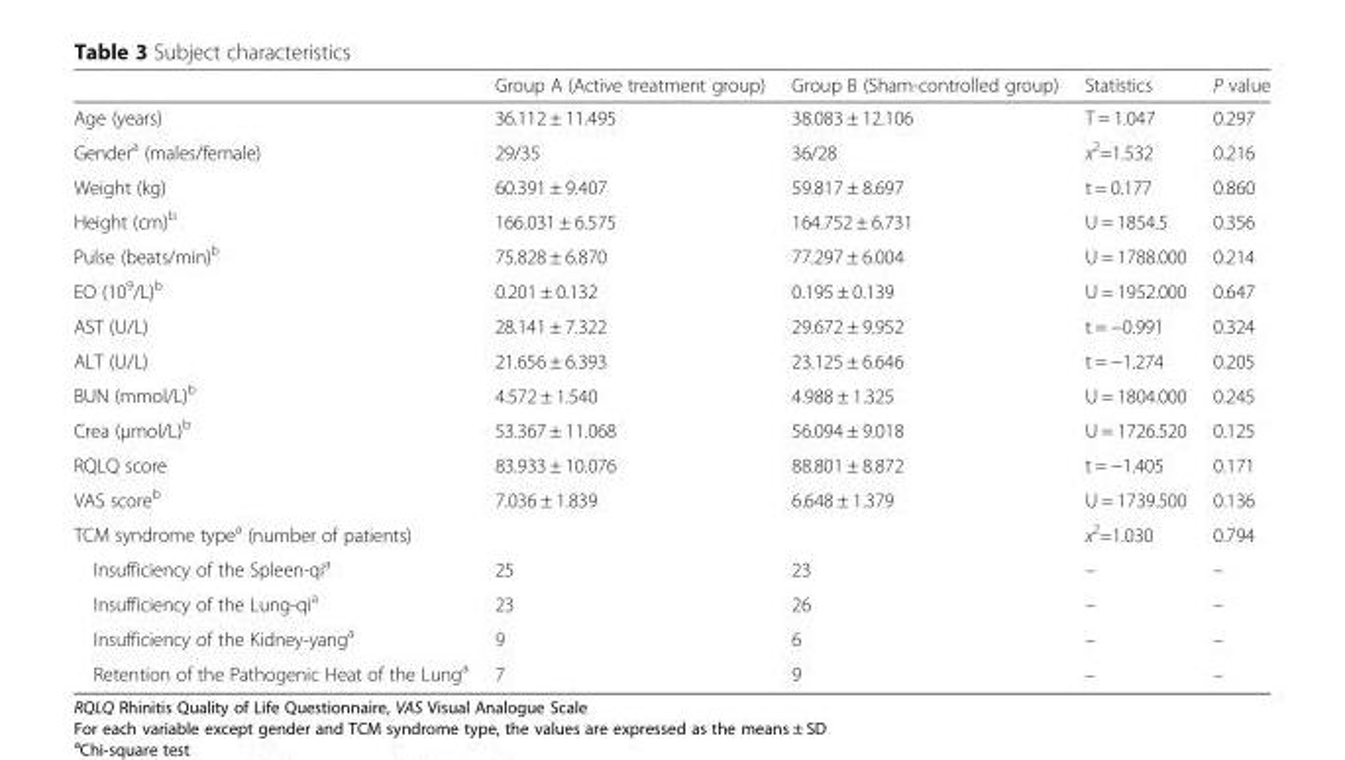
<table><thead><tr><td></td><td>Group A (Active treatment group)</td><td>Group B (Sham-controlled group)</td><td>Statistics</td><td>P value</td></tr></thead><tbody><tr><td>Age (years)</td><td>36.112 ± 11.495</td><td>38.083 ± 12.106</td><td>T = 1.047</td><td>0.297</td></tr><tr><td>Gender<sup>a</sup> (males/female)</td><td>29/35</td><td>36/28</td><td>x<sup>2</sup>=1.532</td><td>0.216</td></tr><tr><td>Weight (kg)</td><td>60.391 ± 9.407</td><td>59.817 ± 8.697</td><td>t = 0.177</td><td>0.860</td></tr><tr><td>Height (cm)<sup>b</sup></td><td>166.031 ± 6.575</td><td>164.752 ± 6.731</td><td>U = 1854.5</td><td>0.356</td></tr><tr><td>Pulse (beats/min)<sup>b</sup></td><td>75.828 ± 6.870</td><td>77.297 ± 6.004</td><td>U = 1788.000</td><td>0.214</td></tr><tr><td>EO (10<sup>9</sup>/L)<sup>b</sup></td><td>0.201 ± 0.132</td><td>0.195 ± 0.139</td><td>U = 1952.000</td><td>0.647</td></tr><tr><td>AST (U/L)</td><td>28.141 ± 7.322</td><td>29.672 ± 9.952</td><td>t = −0.991</td><td>0.324</td></tr><tr><td>ALT (U/L)</td><td>21.656 ± 6.393</td><td>23.125 ± 6.646</td><td>t = −1.274</td><td>0.205</td></tr><tr><td>BUN (mmol/L)<sup>b</sup></td><td>4.572 ± 1.540</td><td>4.988 ± 1.325</td><td>U = 1804.000</td><td>0.245</td></tr><tr><td>Crea (μmol/L)<sup>b</sup></td><td>53.367 ± 11.068</td><td>56.094 ± 9.018</td><td>U = 1726.520</td><td>0.125</td></tr><tr><td>RQLQ score</td><td>83.933 ± 10.076</td><td>88.801 ± 8.872</td><td>t = −1.405</td><td>0.171</td></tr><tr><td>VAS score<sup>b</sup></td><td>7.036 ± 1.839</td><td>6.648 ± 1.379</td><td>U = 1739.500</td><td>0.136</td></tr><tr><td>TCM syndrome type<sup>a</sup> (number of patients)</td><td></td><td></td><td>x<sup>2</sup>=1.030</td><td>0.794</td></tr><tr><td>Insufficiency of the Spleen-qi<sup>a</sup></td><td>25</td><td>23</td><td>–</td><td>–</td></tr><tr><td>Insufficiency of the Lung-qi<sup>a</sup></td><td>23</td><td>26</td><td>–</td><td>–</td></tr><tr><td>Insufficiency of the Kidney-yang<sup>a</sup></td><td>9</td><td>6</td><td>–</td><td>–</td></tr><tr><td>Retention of the Pathogenic Heat of the Lung<sup>a</sup></td><td>7</td><td>9</td><td>–</td><td>–</td></tr></tbody></table>